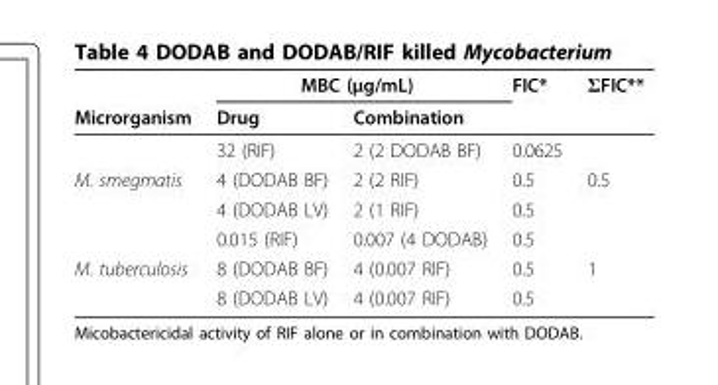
<table><thead><tr><td rowspan="2">Microrganism</td><td colspan="2">MBC (μg/mL)</td><td rowspan="2">FIC*</td><td rowspan="2">ΣFIC**</td></tr><tr><td>Drug</td><td>Combination</td></tr></thead><tbody><tr><td></td><td>32 (RIF)</td><td>2 (2 DODAB BF)</td><td>0.0625</td><td></td></tr><tr><td rowspan="3">M. smegmatis</td><td>4 (DODAB BF)</td><td>2 (2 RIF)</td><td>0.5</td><td>0.5</td></tr><tr><td>4 (DODAB LV)</td><td>2 (1 RIF)</td><td>0.5</td><td></td></tr><tr><td>0.015 (RIF)</td><td>0.007 (4 DODAB)</td><td>0.5</td><td></td></tr><tr><td rowspan="2">M. tuberculosis</td><td>8 (DODAB BF)</td><td>4 (0.007 RIF)</td><td>0.5</td><td>1</td></tr><tr><td>8 (DODAB LV)</td><td>4 (0.007 RIF)</td><td>0.5</td><td></td></tr></tbody></table>